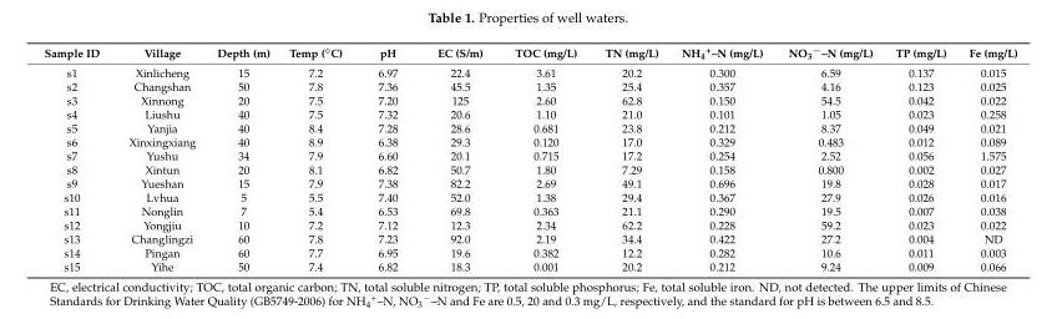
<table><thead><tr><td>Sample ID</td><td>Village</td><td>Depth (m)</td><td>Temp (◦C)</td><td>pH</td><td>EC (S/m)</td><td>TOC (mg/L)</td><td>TN (mg/L)</td><td>NH<sub>4</sub><sup>+</sup>–N (mg/L)</td><td>NO<sub>3</sub><sup>−</sup>–N (mg/L)</td><td>TP (mg/L)</td><td>Fe (mg/L)</td></tr></thead><tbody><tr><td>s1</td><td>Xinlicheng</td><td>15</td><td>7.2</td><td>6.97</td><td>22.4</td><td>3.61</td><td>20.2</td><td>0.300</td><td>6.59</td><td>0.137</td><td>0.015</td></tr><tr><td>s2</td><td>Changshan</td><td>50</td><td>7.8</td><td>7.36</td><td>45.5</td><td>1.35</td><td>25.4</td><td>0.357</td><td>4.16</td><td>0.123</td><td>0.025</td></tr><tr><td>s3</td><td>Xinnong</td><td>20</td><td>7.5</td><td>7.20</td><td>125</td><td>2.60</td><td>62.8</td><td>0.150</td><td>54.5</td><td>0.042</td><td>0.022</td></tr><tr><td>s4</td><td>Liushu</td><td>40</td><td>7.5</td><td>7.32</td><td>20.6</td><td>1.10</td><td>21.0</td><td>0.101</td><td>1.05</td><td>0.023</td><td>0.258</td></tr><tr><td>s5</td><td>Yanjia</td><td>40</td><td>8.4</td><td>7.28</td><td>28.6</td><td>0.681</td><td>23.8</td><td>0.212</td><td>8.37</td><td>0.049</td><td>0.021</td></tr><tr><td>s6</td><td>Xinxingxiang</td><td>40</td><td>8.9</td><td>6.38</td><td>29.3</td><td>0.120</td><td>17.0</td><td>0.329</td><td>0.483</td><td>0.012</td><td>0.089</td></tr><tr><td>s7</td><td>Yushu</td><td>34</td><td>7.9</td><td>6.60</td><td>20.1</td><td>0.715</td><td>17.2</td><td>0.254</td><td>2.52</td><td>0.056</td><td>1.575</td></tr><tr><td>s8</td><td>Xintun</td><td>20</td><td>8.1</td><td>6.82</td><td>50.7</td><td>1.80</td><td>7.29</td><td>0.158</td><td>0.800</td><td>0.002</td><td>0.027</td></tr><tr><td>s9</td><td>Yueshan</td><td>15</td><td>7.9</td><td>7.38</td><td>82.2</td><td>2.69</td><td>49.1</td><td>0.696</td><td>19.8</td><td>0.028</td><td>0.017</td></tr><tr><td>s10</td><td>Lvhua</td><td>5</td><td>5.5</td><td>7.40</td><td>52.0</td><td>1.38</td><td>29.4</td><td>0.367</td><td>27.9</td><td>0.026</td><td>0.016</td></tr><tr><td>s11</td><td>Nonglin</td><td>7</td><td>5.4</td><td>6.53</td><td>69.8</td><td>0.363</td><td>21.1</td><td>0.290</td><td>19.5</td><td>0.007</td><td>0.038</td></tr><tr><td>s12</td><td>Yongjiu</td><td>10</td><td>7.2</td><td>7.12</td><td>12.3</td><td>2.34</td><td>62.2</td><td>0.228</td><td>59.2</td><td>0.023</td><td>0.022</td></tr><tr><td>s13</td><td>Changlingzi</td><td>60</td><td>7.8</td><td>7.23</td><td>92.0</td><td>2.19</td><td>34.4</td><td>0.422</td><td>27.2</td><td>0.004</td><td>ND</td></tr><tr><td>s14</td><td>Pingan</td><td>60</td><td>7.7</td><td>6.95</td><td>19.6</td><td>0.382</td><td>12.2</td><td>0.282</td><td>10.6</td><td>0.011</td><td>0.003</td></tr><tr><td>s15</td><td>Yihe</td><td>50</td><td>7.4</td><td>6.82</td><td>18.3</td><td>0.001</td><td>20.2</td><td>0.212</td><td>9.24</td><td>0.009</td><td>0.066</td></tr></tbody></table>